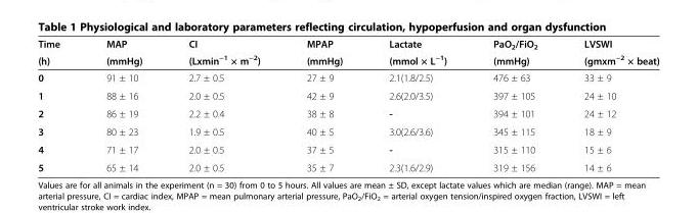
<table><thead><tr><td rowspan="2">Time (h)</td><td rowspan="2">MAP (mmHg)</td><td rowspan="2">CI (Lxmin<sup>−1</sup> × m<sup>−2</sup>)</td><td rowspan="2">MPAP (mmHg)</td><td rowspan="2">Lactate (mmol × L<sup>−1</sup>)</td><td rowspan="2">PaO<sub>2</sub>/FiO<sub>2</sub> (mmHg)</td><td rowspan="2">LVSWI (gmxm<sup>−2</sup> × beat)</td></tr><tr></tr></thead><tbody><tr><td>0</td><td>91 ± 10</td><td>2.7 ± 0.5</td><td>27 ± 9</td><td>2.1(1.8/2.5)</td><td>476 ± 63</td><td>33 ± 9</td></tr><tr><td>1</td><td>88 ± 16</td><td>2.0 ± 0.5</td><td>42 ± 9</td><td>2.6(2.0/3.5)</td><td>397 ± 105</td><td>24 ± 10</td></tr><tr><td>2</td><td>86 ± 19</td><td>2.2 ± 0.4</td><td>38 ± 8</td><td>-</td><td>394 ± 101</td><td>24 ± 12</td></tr><tr><td>3</td><td>80 ± 23</td><td>1.9 ± 0.5</td><td>40 ± 5</td><td>3.0(2.6/3.6)</td><td>345 ± 115</td><td>18 ± 9</td></tr><tr><td>4</td><td>71 ± 17</td><td>2.0 ± 0.5</td><td>37 ± 5</td><td>-</td><td>315 ± 110</td><td>15 ± 6</td></tr><tr><td>5</td><td>65 ± 14</td><td>2.0 ± 0.5</td><td>35 ± 7</td><td>2.3(1.6/2.9)</td><td>319 ± 156</td><td>14 ± 6</td></tr></tbody></table>